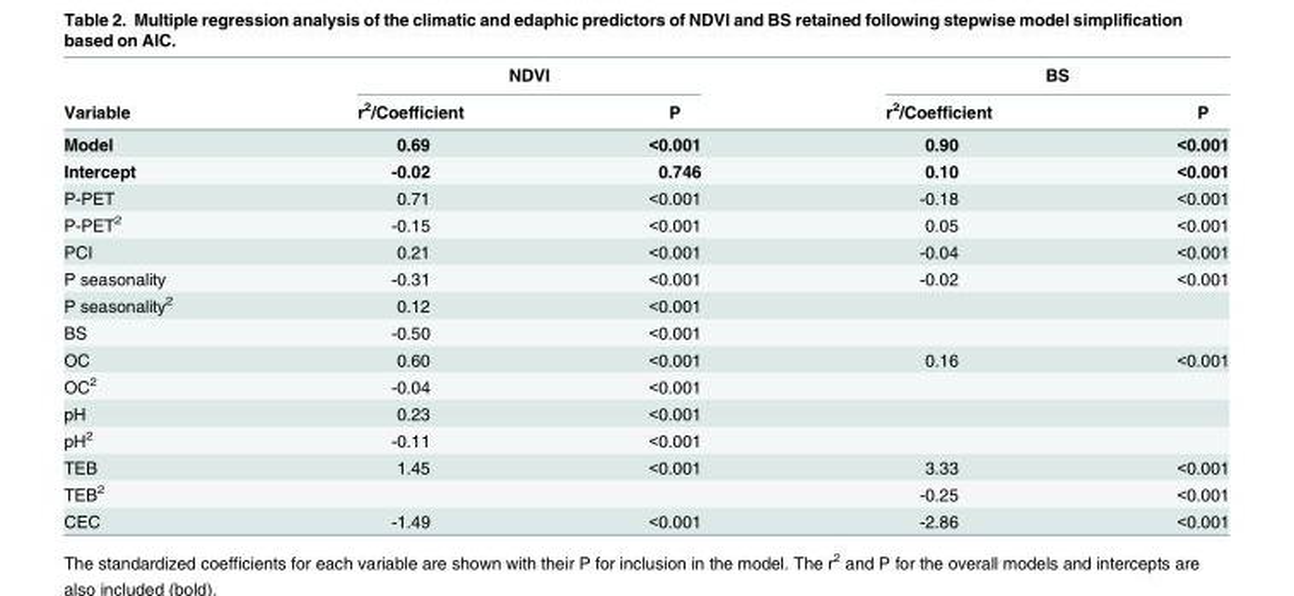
<table><thead><tr><td rowspan="2">Variable</td><td colspan="2">NDVI</td><td colspan="2">BS</td></tr><tr><td>r<sup>2</sup>/Coefficient</td><td>P</td><td>r<sup>2</sup>/Coefficient</td><td>P</td></tr></thead><tbody><tr><td>Model</td><td>0.69</td><td>&lt;0.001</td><td>0.90</td><td>&lt;0.001</td></tr><tr><td>Intercept</td><td>-0.02</td><td>0.746</td><td>0.10</td><td>&lt;0.001</td></tr><tr><td>P-PET</td><td>0.71</td><td>&lt;0.001</td><td>-0.18</td><td>&lt;0.001</td></tr><tr><td>P-PET<sup>2</sup></td><td>-0.15</td><td>&lt;0.001</td><td>0.05</td><td>&lt;0.001</td></tr><tr><td>PCI</td><td>0.21</td><td>&lt;0.001</td><td>-0.04</td><td>&lt;0.001</td></tr><tr><td>P seasonality</td><td>-0.31</td><td>&lt;0.001</td><td>-0.02</td><td>&lt;0.001</td></tr><tr><td>P seasonality<sup>2</sup></td><td>0.12</td><td>&lt;0.001</td><td></td><td></td></tr><tr><td>BS</td><td>-0.50</td><td>&lt;0.001</td><td></td><td></td></tr><tr><td>OC</td><td>0.60</td><td>&lt;0.001</td><td>0.16</td><td>&lt;0.001</td></tr><tr><td>OC<sup>2</sup></td><td>-0.04</td><td>&lt;0.001</td><td></td><td></td></tr><tr><td>pH</td><td>0.23</td><td>&lt;0.001</td><td></td><td></td></tr><tr><td>pH<sup>2</sup></td><td>-0.11</td><td>&lt;0.001</td><td></td><td></td></tr><tr><td>TEB</td><td>1.45</td><td>&lt;0.001</td><td>3.33</td><td>&lt;0.001</td></tr><tr><td>TEB<sup>2</sup></td><td></td><td></td><td>-0.25</td><td>&lt;0.001</td></tr><tr><td>CEC</td><td>-1.49</td><td>&lt;0.001</td><td>-2.86</td><td>&lt;0.001</td></tr></tbody></table>